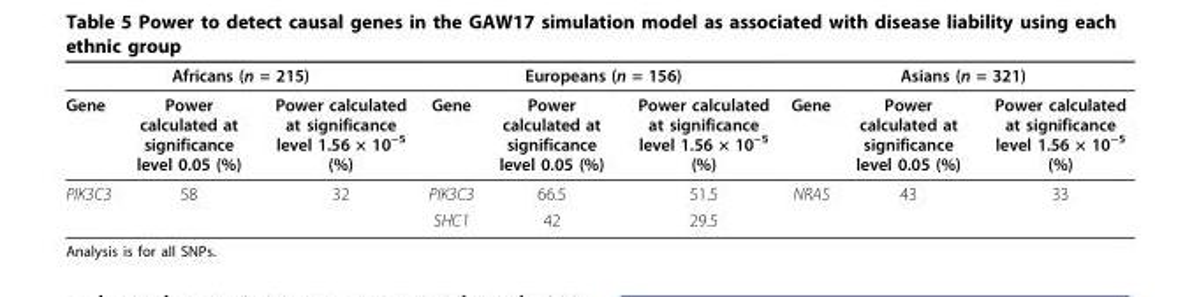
<table><thead><tr><td colspan="3">Africans (n = 215)</td><td colspan="3">Europeans (n = 156)</td><td colspan="3">Asians (n = 321)</td></tr><tr><td>Gene</td><td>Power calculated at significance level 0.05 (%)</td><td>Power calculated at significance level 1.56 × 10<sup>−5</sup> (%)</td><td>Gene</td><td>Power calculated at significance level 0.05 (%)</td><td>Power calculated at significance level 1.56 × 10<sup>−5</sup> (%)</td><td>Gene</td><td>Power calculated at significance level 0.05 (%)</td><td>Power calculated at significance level 1.56 × 10<sup>−5</sup> (%)</td></tr></thead><tbody><tr><td rowspan="2">PIK3C3</td><td>58</td><td>32</td><td>PIK3C3</td><td>66.5</td><td>51.5</td><td>NRAS</td><td>43</td><td>33</td></tr><tr><td></td><td></td><td>SHC1</td><td>42</td><td>29.5</td><td></td><td></td><td></td></tr></tbody></table>